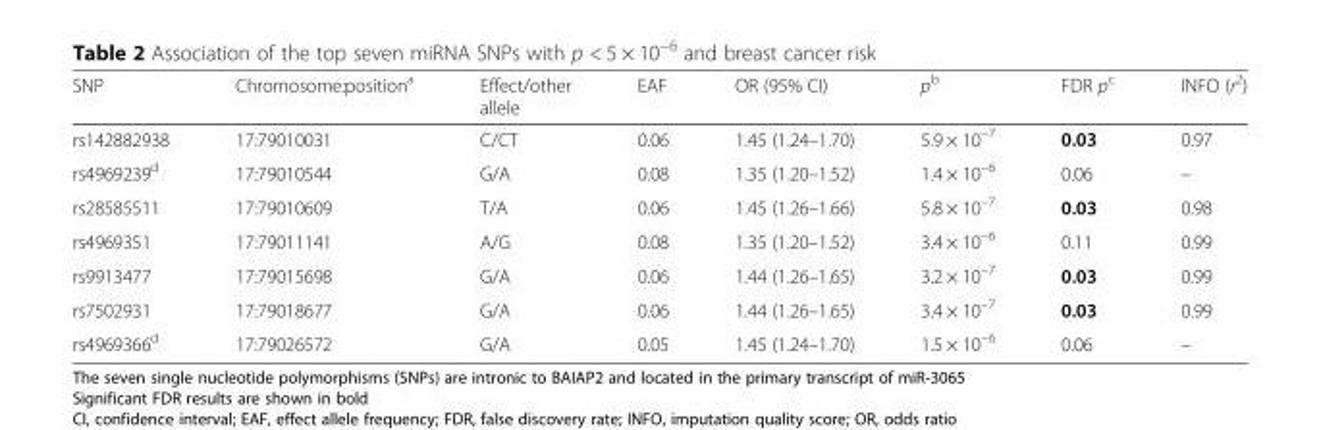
<table><thead><tr><td>SNP</td><td>Chromosome:position<sup>a</sup></td><td>Effect/other allele</td><td>EAF</td><td>OR (95% CI)</td><td>p<sup>b</sup></td><td>FDR p<sup>c</sup></td><td>INFO (r<sup>2</sup>)</td></tr></thead><tbody><tr><td>rs142882938</td><td>17:79010031</td><td>C/CT</td><td>0.06</td><td>1.45 (1.24–1.70)</td><td>5.9 × 10<sup>–7</sup></td><td>0.03</td><td>0.97</td></tr><tr><td>rs4969239<sup>d</sup></td><td>17:79010544</td><td>G/A</td><td>0.08</td><td>1.35 (1.20–1.52)</td><td>1.4 × 10<sup>–6</sup></td><td>0.06</td><td>–</td></tr><tr><td>rs28585511</td><td>17:79010609</td><td>T/A</td><td>0.06</td><td>1.45 (1.26–1.66)</td><td>5.8 × 10<sup>–7</sup></td><td>0.03</td><td>0.98</td></tr><tr><td>rs4969351</td><td>17:79011141</td><td>A/G</td><td>0.08</td><td>1.35 (1.20–1.52)</td><td>3.4 × 10<sup>–6</sup></td><td>0.11</td><td>0.99</td></tr><tr><td>rs9913477</td><td>17:79015698</td><td>G/A</td><td>0.06</td><td>1.44 (1.26–1.65)</td><td>3.2 × 10<sup>–7</sup></td><td>0.03</td><td>0.99</td></tr><tr><td>rs7502931</td><td>17:79018677</td><td>G/A</td><td>0.06</td><td>1.44 (1.26–1.65)</td><td>3.4 × 10<sup>–7</sup></td><td>0.03</td><td>0.99</td></tr><tr><td>rs4969366<sup>d</sup></td><td>17:79026572</td><td>G/A</td><td>0.05</td><td>1.45 (1.24–1.70)</td><td>1.5 × 10<sup>–6</sup></td><td>0.06</td><td>–</td></tr></tbody></table>